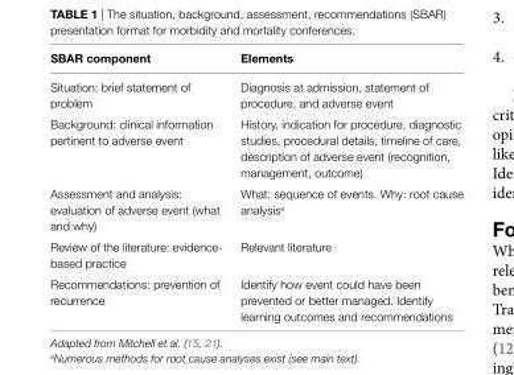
<table><thead><tr><td>SBAR component</td><td>elements</td></tr></thead><tbody><tr><td>Situation: brief statement of problem</td><td>Diagnosis at admission, statement of procedure, and adverse event</td></tr><tr><td>Background: clinical information pertinent to adverse event</td><td>History, indication for procedure, diagnostic studies, procedural details, timeline of care, description of adverse event (recognition, management, outcome)</td></tr><tr><td>Assessment and analysis: evaluation of adverse event (what and why)</td><td>What: sequence of events. Why: root cause analysis<sup>a</sup></td></tr><tr><td>Review of the literature: evidence- based practice</td><td>Relevant literature</td></tr><tr><td>Recommendations: prevention of recurrence</td><td>Identify how event could have been prevented or better managed. Identify learning outcomes and recommendations</td></tr></tbody></table>